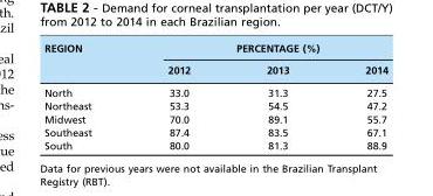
<table><thead><tr><td rowspan="2">REGION</td><td colspan="3">PERCENTAGE (%)</td></tr><tr><td>2012</td><td>2013</td><td>2014</td></tr></thead><tbody><tr><td>North</td><td>33.0</td><td>31.3</td><td>27.5</td></tr><tr><td>Northeast</td><td>53.3</td><td>54.5</td><td>47.2</td></tr><tr><td>Midwest</td><td>70.0</td><td>89.1</td><td>55.7</td></tr><tr><td>Southeast</td><td>87.4</td><td>83.5</td><td>67.1</td></tr><tr><td>South</td><td>80.0</td><td>81.3</td><td>88.9</td></tr></tbody></table>